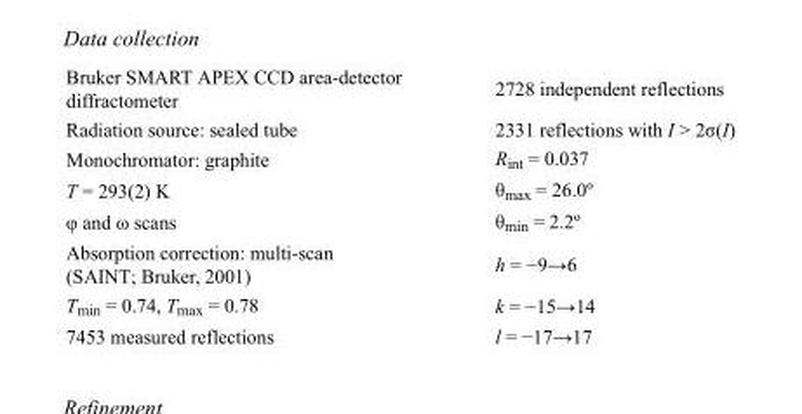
<table><tbody><tr><td>Bruker SMART APEX CCD area-detector diffractometer</td><td>2728 independent reflections</td></tr><tr><td>Radiation source: sealed tube</td><td>2331 reflections with I &gt; 2σ(I)</td></tr><tr><td>Monochromator: graphite</td><td>R<sub>int</sub> = 0.037</td></tr><tr><td>T = 293(2) K</td><td>θ<sub>max</sub> = 26.0º</td></tr><tr><td>φ and ω scans</td><td>θ<sub>min</sub> = 2.2º</td></tr><tr><td>Absorption correction: multi-scan (SAINT; Bruker, 2001)</td><td>h = −9→6</td></tr><tr><td>T<sub>min</sub> = 0.74, T<sub>max</sub> = 0.78</td><td>k = −15→14</td></tr><tr><td>7453 measured reflections</td><td>l = −17→17</td></tr></tbody></table>